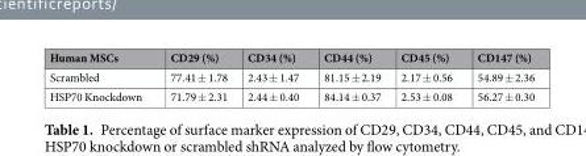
<table><thead><tr><td>Human MSCs</td><td>CD29 (%)</td><td>CD34 (%)</td><td>CD44 (%)</td><td>CD45 (%)</td><td>CD147 (%)</td></tr></thead><tbody><tr><td>Scrambled</td><td>77.41 ± 1.78</td><td>2.43 ± 1.47</td><td>81.15 ± 2.19</td><td>2.17 ± 0.56</td><td>54.89 ± 2.36</td></tr><tr><td>HSP70 Knockdown</td><td>71.79 ± 2.31</td><td>2.44 ± 0.40</td><td>84.14 ± 0.37</td><td>2.53 ± 0.08</td><td>56.27 ± 0.30</td></tr></tbody></table>